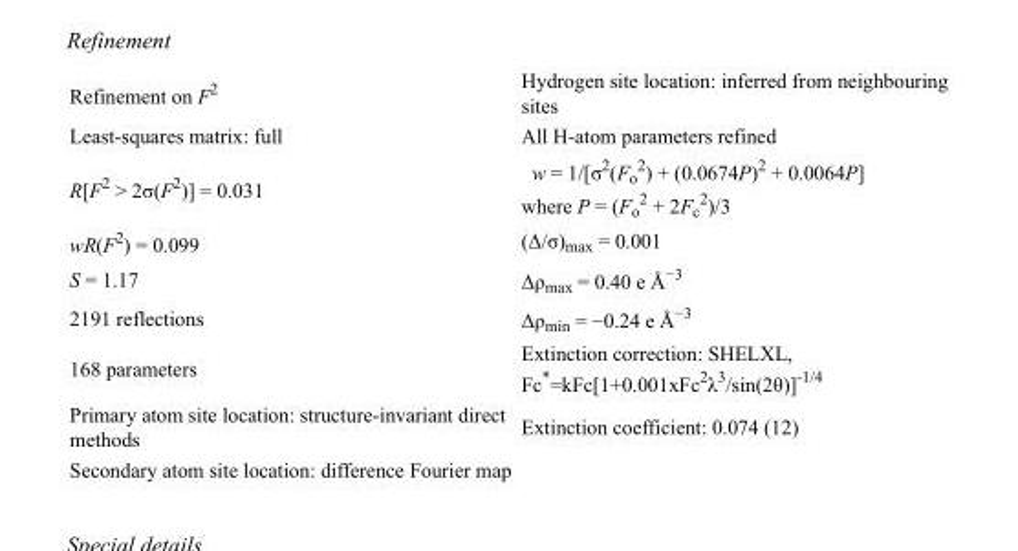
<table><tbody><tr><td>Refinement on F<sup>2</sup></td><td>Hydrogen site location: inferred from neighbouring sites</td></tr><tr><td>Least-squares matrix: full</td><td>All H-atom parameters refined</td></tr><tr><td>R[F<sup>2</sup> &gt; 2σ(F<sup>2</sup>)] = 0.031</td><td>w = 1/[σ<sup>2</sup>(F<sub>o</sub> <sup>2</sup>) + (0.0674P)<sup>2</sup> + 0.0064P] where P = (F<sub>o</sub> <sup>2</sup> + 2F<sub>c</sub> <sup>2</sup>)/3</td></tr><tr><td>wR(F<sup>2</sup>) = 0.099</td><td>(Δ/σ)<sub>max</sub> = 0.001</td></tr><tr><td>S = 1.17</td><td>Δρ<sub>max</sub> = 0.40 e Å<sup>−3</sup></td></tr><tr><td>2191 reflections</td><td>Δρ<sub>min</sub> = −0.24 e Å<sup>−3</sup></td></tr><tr><td>168 parameters</td><td>Extinction correction: SHELXL, Fc*=kFc[1+0.001xFc<sup>2</sup>λ<sup>3</sup>/sin(2θ)]<sup>-1/4</sup></td></tr><tr><td>Primary atom site location: structure-invariant direct methods</td><td>Extinction coefficient: 0.074 (12)</td></tr><tr><td>Secondary atom site location: difference Fourier map</td><td></td></tr></tbody></table>